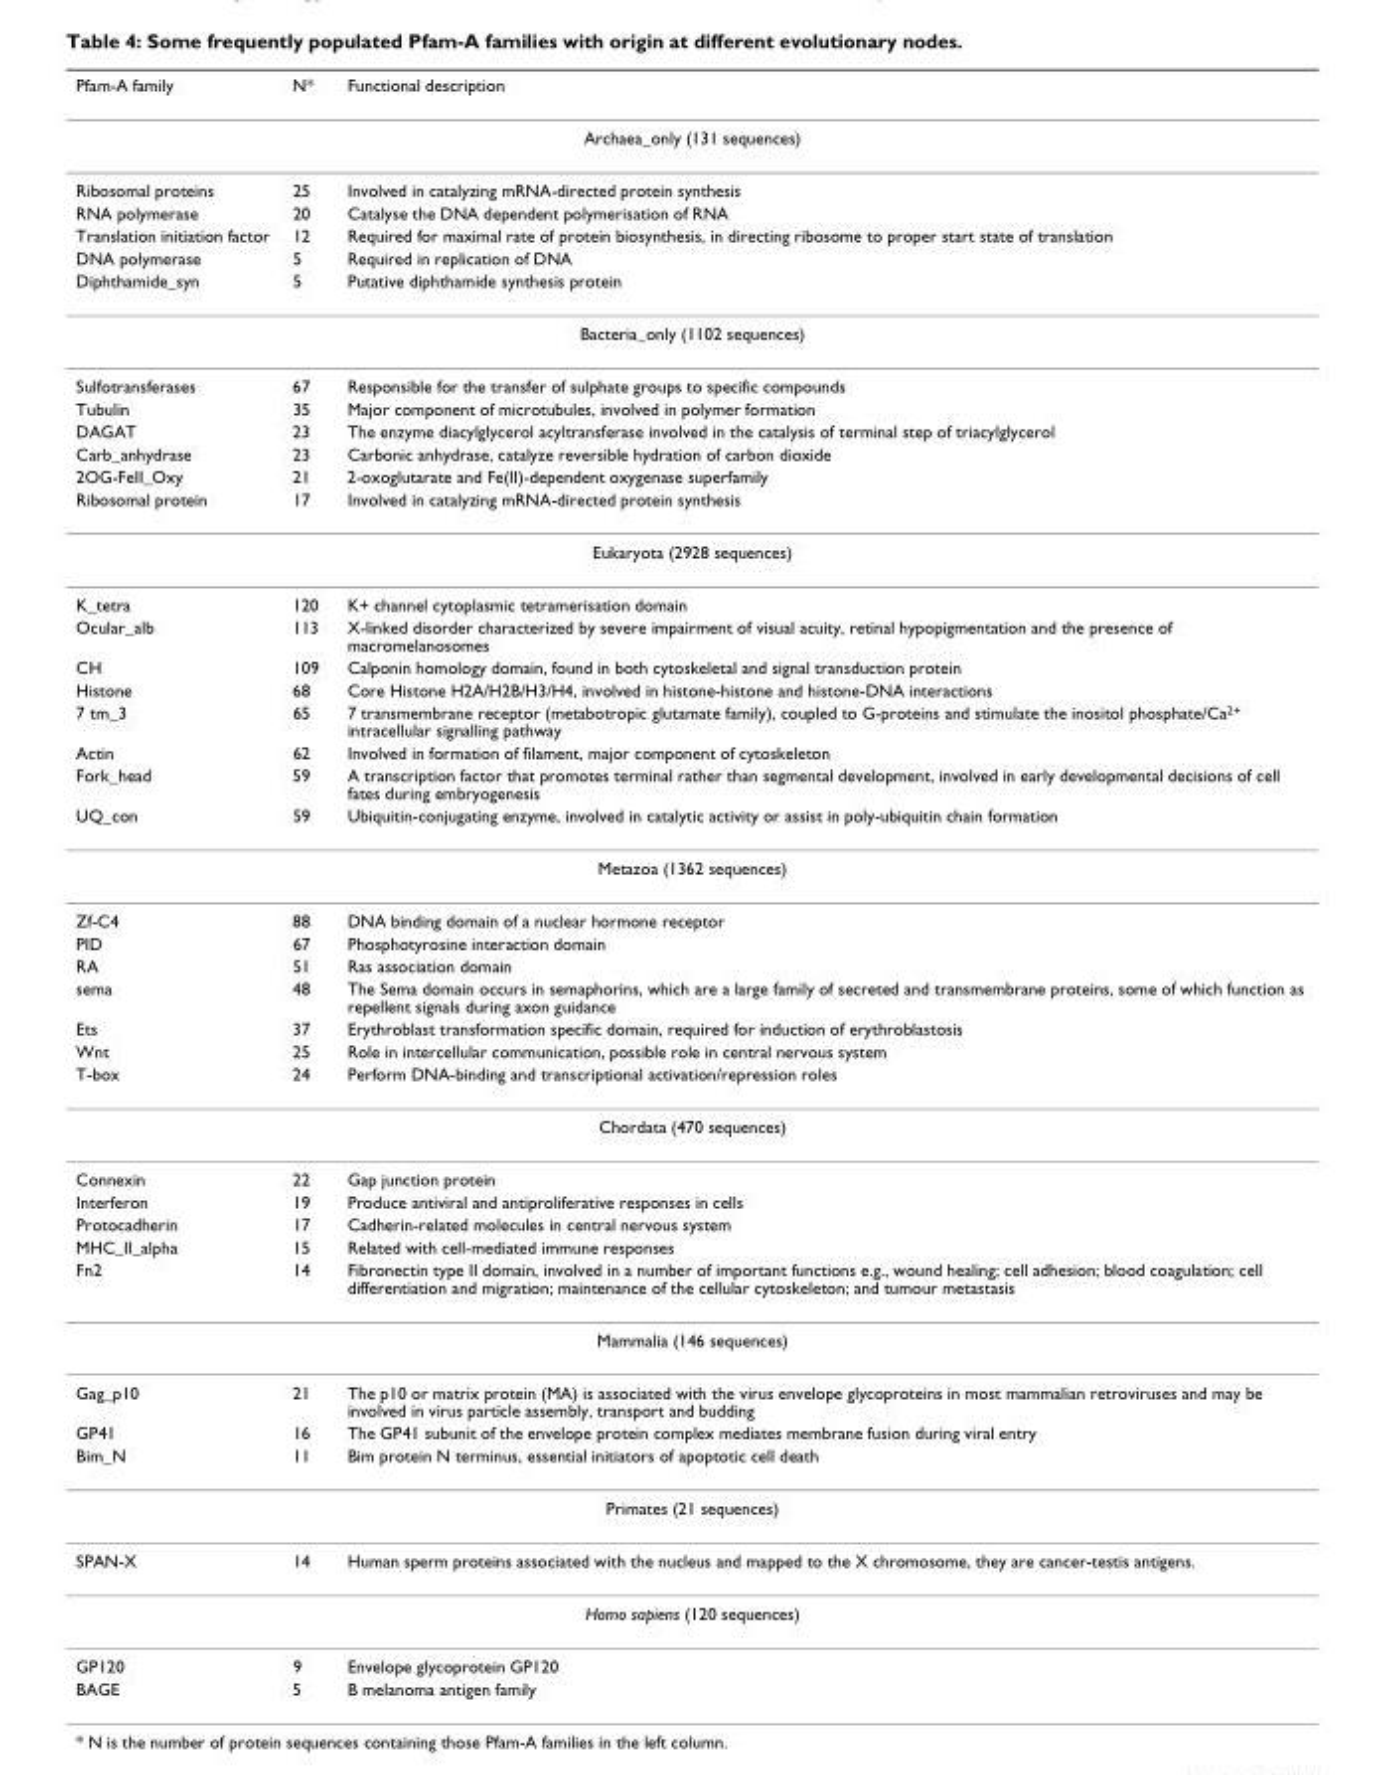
<table><thead><tr><td>Pfam-A family</td><td>N*</td><td>Functional description</td></tr></thead><tbody><tr><td colspan="3">Archaea_only (131 sequences)</td></tr><tr><td>Ribosomal proteins</td><td>25</td><td>Involved in catalyzing mRNA-directed protein synthesis</td></tr><tr><td>RNA polymerase</td><td>20</td><td>Catalyse the DNA dependent polymerisation of RNA</td></tr><tr><td>Translation initiation factor</td><td>12</td><td>Required for maximal rate of protein biosynthesis, in directing ribosome to proper start state of translation</td></tr><tr><td>DNA polymerase</td><td>5</td><td>Required in replication of DNA</td></tr><tr><td>Diphthamide_syn</td><td>5</td><td>Putative diphthamide synthesis protein</td></tr><tr><td colspan="3">Bacteria_only (1102 sequences)</td></tr><tr><td>Sulfotransferases</td><td>67</td><td>Responsible for the transfer of sulphate groups to specific compounds</td></tr><tr><td>Tubulin</td><td>35</td><td>Major component of microtubules, involved in polymer formation</td></tr><tr><td>DAGAT</td><td>23</td><td>The enzyme diacylglycerol acyltransferase involved in the catalysis of terminal step of triacylglycerol</td></tr><tr><td>Carb_anhydrase</td><td>23</td><td>Carbonic anhydrase, catalyze reversible hydration of carbon dioxide</td></tr><tr><td>2OG-FeII_Oxy</td><td>21</td><td>2-oxoglutarate and Fe(II)-dependent oxygenase superfamily</td></tr><tr><td>Ribosomal protein</td><td>17</td><td>Involved in catalyzing mRNA-directed protein synthesis</td></tr><tr><td colspan="3">Eukaryota (2928 sequences)</td></tr><tr><td>K_tetra</td><td>120</td><td>K+ channel cytoplasmic tetramerisation domain</td></tr><tr><td>Ocular_alb</td><td>113</td><td>X-linked disorder characterized by severe impairment of visual acuity, retinal hypopigmentation and the presence of macromelanosomes</td></tr><tr><td>CH</td><td>109</td><td>Calponin homology domain, found in both cytoskeletal and signal transduction protein</td></tr><tr><td>Histone</td><td>68</td><td>Core Histone H2A/H2B/H3/H4, involved in histone-histone and histone-DNA interactions</td></tr><tr><td>7 tm_3</td><td>65</td><td>7 transmembrane receptor (metabotropic glutamate family), coupled to G-proteins and stimulate the inositol phosphate/Ca<sup>2+</sup> intracellular signalling pathway</td></tr><tr><td>Actin</td><td>62</td><td>Involved in formation of filament, major component of cytoskeleton</td></tr><tr><td>Fork_head</td><td>59</td><td>A transcription factor that promotes terminal rather than segmental development, involved in early developmental decisions of cell fates during embryogenesis</td></tr><tr><td>UQ_con</td><td>59</td><td>Ubiquitin-conjugating enzyme, involved in catalytic activity or assist in poly-ubiquitin chain formation</td></tr><tr><td colspan="3">Metazoa (1362 sequences)</td></tr><tr><td>Zf-C4</td><td>88</td><td>DNA binding domain of a nuclear hormone receptor</td></tr><tr><td>PID</td><td>67</td><td>Phosphotyrosine interaction domain</td></tr><tr><td>RA</td><td>51</td><td>Ras association domain</td></tr><tr><td>sema</td><td>48</td><td>The Sema domain occurs in semaphorins, which are a large family of secreted and transmembrane proteins, some of which function as repellent signals during axon guidance</td></tr><tr><td>Ets</td><td>37</td><td>Erythroblast transformation specific domain, required for induction of erythroblastosis</td></tr><tr><td>Wnt</td><td>25</td><td>Role in intercellular communication, possible role in central nervous system</td></tr><tr><td>T-box</td><td>24</td><td>Perform DNA-binding and transcriptional activation/repression roles</td></tr><tr><td colspan="3">Chordata (470 sequences)</td></tr><tr><td>Connexin</td><td>22</td><td>Gap junction protein</td></tr><tr><td>Interferon</td><td>19</td><td>Produce antiviral and antiproliferative responses in cells</td></tr><tr><td>Protocadherin</td><td>17</td><td>Cadherin-related molecules in central nervous system</td></tr><tr><td>MHC_II_alpha</td><td>15</td><td>Related with cell-mediated immune responses</td></tr><tr><td>Fn2</td><td>14</td><td>Fibronectin type II domain, involved in a number of important functions e.g., wound healing; cell adhesion; blood coagulation; cell differentiation and migration; maintenance of the cellular cytoskeleton; and tumour metastasis</td></tr><tr><td colspan="3">Mammalia (146 sequences)</td></tr><tr><td>Gag_p10</td><td>21</td><td>The p10 or matrix protein (MA) is associated with the virus envelope glycoproteins in most mammalian retroviruses and may be involved in virus particle assembly, transport and budding</td></tr><tr><td>GP41</td><td>16</td><td>The GP41 subunit of the envelope protein complex mediates membrane fusion during viral entry</td></tr><tr><td>Bim_N</td><td>11</td><td>Bim protein N terminus, essential initiators of apoptotic cell death</td></tr><tr><td colspan="3">Primates (21 sequences)</td></tr><tr><td>SPAN-X</td><td>14</td><td>Human sperm proteins associated with the nucleus and mapped to the X chromosome, they are cancer-testis antigens.</td></tr><tr><td colspan="3">Homo sapiens (120 sequences)</td></tr><tr><td>GP120</td><td>9</td><td>Envelope glycoprotein GP120</td></tr><tr><td>BAGE</td><td>5</td><td>B melanoma antigen family</td></tr></tbody></table>